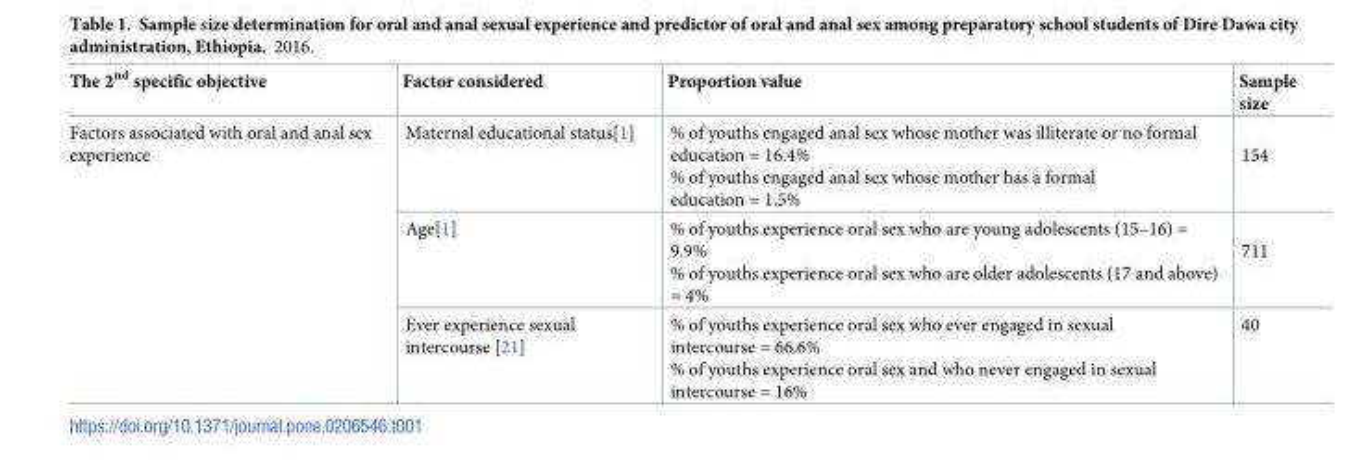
<table><thead><tr><td>The 2<sup>nd</sup> specific objective</td><td>Factor considered</td><td>Proportion value</td><td>Sample size</td></tr></thead><tbody><tr><td rowspan="3">Factors associated with oral and anal sex experience</td><td>Maternal educational status[1]</td><td>% of youths engaged anal sex whose mother was illiterate or no formal education = 16.4% % of youths engaged anal sex whose mother has a formal education = 1.5%</td><td>154</td></tr><tr><td>Age[1]</td><td>% of youths experience oral sex who are young adolescents (15–16) = 9.9% % of youths experience oral sex who are older adolescents (17 and above) = 4%</td><td>711</td></tr><tr><td>Ever experience sexual intercourse [21]</td><td>% of youths experience oral sex who ever engaged in sexual intercourse = 66.6% % of youths experience oral sex and who never engaged in sexual intercourse = 16%</td><td>40</td></tr></tbody></table>